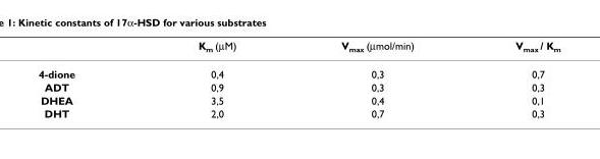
<table><thead><tr><td></td><td>K<sub>m</sub> (µM)</td><td>V<sub>max</sub> (µmol/min)</td><td>V<sub>max</sub> / K<sub>m</sub></td></tr></thead><tbody><tr><td>4-dione</td><td>0,4</td><td>0,3</td><td>0,7</td></tr><tr><td>ADT</td><td>0,9</td><td>0,3</td><td>0,3</td></tr><tr><td>DHEA</td><td>3,5</td><td>0,4</td><td>0,1</td></tr><tr><td>DHT</td><td>2,0</td><td>0,7</td><td>0,3</td></tr></tbody></table>